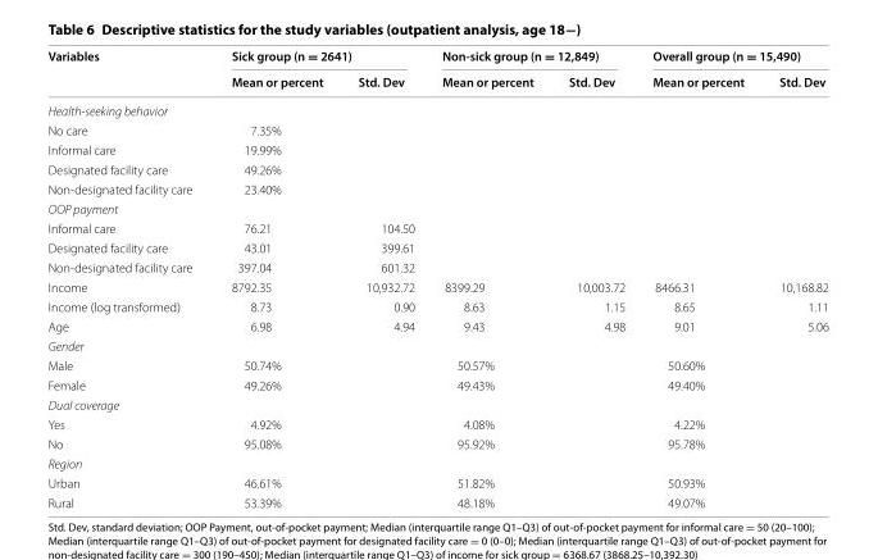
<table><thead><tr><td rowspan="2">Variables</td><td colspan="2">Sick group (n = 2641)</td><td colspan="2">Non-sick group (n = 12,849)</td><td colspan="2">Overall group (n = 15,490)</td></tr><tr><td>Mean or percent</td><td>Std. Dev</td><td>Mean or percent</td><td>Std. Dev</td><td>Mean or percent</td><td>Std. Dev</td></tr></thead><tbody><tr><td colspan="7">Health-seeking behavior</td></tr><tr><td>No care</td><td>7.35%</td><td></td><td></td><td></td><td></td><td></td></tr><tr><td>Informal care</td><td>19.99%</td><td></td><td></td><td></td><td></td><td></td></tr><tr><td>Designated facility care</td><td>49.26%</td><td></td><td></td><td></td><td></td><td></td></tr><tr><td>Non-designated facility care</td><td>23.40%</td><td></td><td></td><td></td><td></td><td></td></tr><tr><td colspan="7">OOP payment</td></tr><tr><td>Informal care</td><td>76.21</td><td>104.50</td><td></td><td></td><td></td><td></td></tr><tr><td>Designated facility care</td><td>43.01</td><td>399.61</td><td></td><td></td><td></td><td></td></tr><tr><td>Non-designated facility care</td><td>397.04</td><td>601.32</td><td></td><td></td><td></td><td></td></tr><tr><td>Income</td><td>8792.35</td><td>10,932.72</td><td>8399.29</td><td>10,003.72</td><td>8466.31</td><td>10,168.82</td></tr><tr><td>Income (log transformed)</td><td>8.73</td><td>0.90</td><td>8.63</td><td>1.15</td><td>8.65</td><td>1.11</td></tr><tr><td>Age</td><td>6.98</td><td>4.94</td><td>9.43</td><td>4.98</td><td>9.01</td><td>5.06</td></tr><tr><td colspan="7">Gender</td></tr><tr><td>Male</td><td>50.74%</td><td></td><td>50.57%</td><td></td><td>50.60%</td><td></td></tr><tr><td>Female</td><td>49.26%</td><td></td><td>49.43%</td><td></td><td>49.40%</td><td></td></tr><tr><td colspan="7">Dual coverage</td></tr><tr><td>Yes</td><td>4.92%</td><td></td><td>4.08%</td><td></td><td>4.22%</td><td></td></tr><tr><td>No</td><td>95.08%</td><td></td><td>95.92%</td><td></td><td>95.78%</td><td></td></tr><tr><td colspan="7">Region</td></tr><tr><td>Urban</td><td>46.61%</td><td></td><td>51.82%</td><td></td><td>50.93%</td><td></td></tr><tr><td>Rural</td><td>53.39%</td><td></td><td>48.18%</td><td></td><td>49.07%</td><td></td></tr></tbody></table>